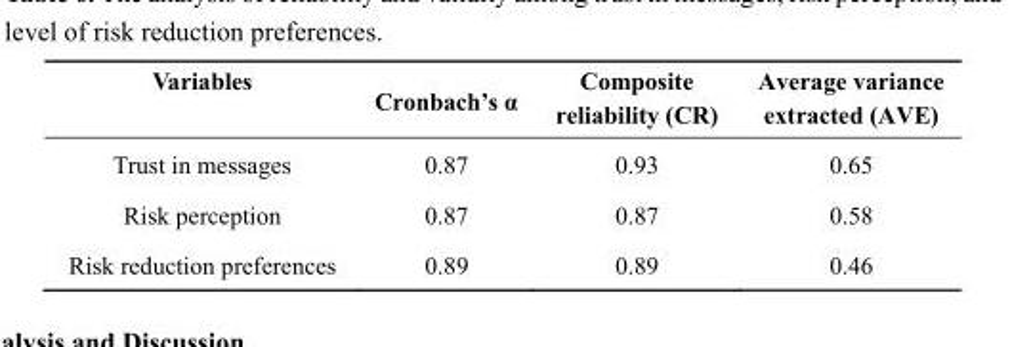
<table><thead><tr><td>Variables</td><td>Cronbach’s α</td><td>Composite reliability (CR)</td><td>Average variance extracted (AVE)</td></tr></thead><tbody><tr><td>Trust in messages</td><td>0.87</td><td>0.93</td><td>0.65</td></tr><tr><td>Risk perception</td><td>0.87</td><td>0.87</td><td>0.58</td></tr><tr><td>Risk reduction preferences</td><td>0.89</td><td>0.89</td><td>0.46</td></tr></tbody></table>